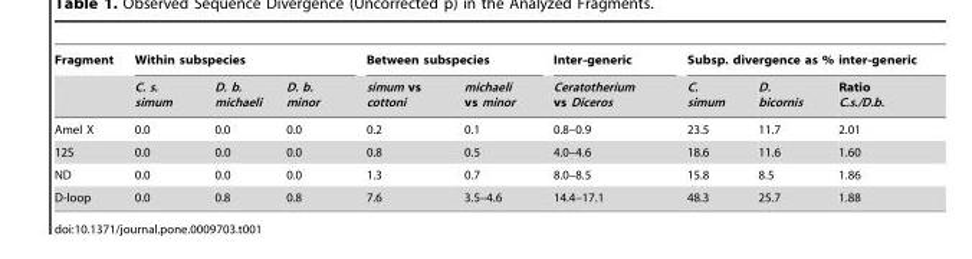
<table><thead><tr><td rowspan="2">Fragment</td><td colspan="3">Within subspecies</td><td colspan="2">Between subspecies</td><td rowspan="2">Inter-generic Ceratotherium vs Diceros</td><td colspan="3">Subsp. divergence as % inter-generic</td></tr><tr><td>C. s. simum</td><td>D. b. michaeli</td><td>D. b. minor</td><td>simum vs cottoni</td><td>michaeli vs minor</td><td>C. simum</td><td>D. bicornis</td><td>Ratio C.s./D.b.</td></tr></thead><tbody><tr><td>Amel X</td><td>0.0</td><td>0.0</td><td>0.0</td><td>0.2</td><td>0.1</td><td>0.8–0.9</td><td>23.5</td><td>11.7</td><td>2.01</td></tr><tr><td>12S</td><td>0.0</td><td>0.0</td><td>0.0</td><td>0.8</td><td>0.5</td><td>4.0–4.6</td><td>18.6</td><td>11.6</td><td>1.60</td></tr><tr><td>ND</td><td>0.0</td><td>0.0</td><td>0.0</td><td>1.3</td><td>0.7</td><td>8.0–8.5</td><td>15.8</td><td>8.5</td><td>1.86</td></tr><tr><td>D-loop</td><td>0.0</td><td>0.8</td><td>0.8</td><td>7.6</td><td>3.5–4.6</td><td>14.4–17.1</td><td>48.3</td><td>25.7</td><td>1.88</td></tr></tbody></table>